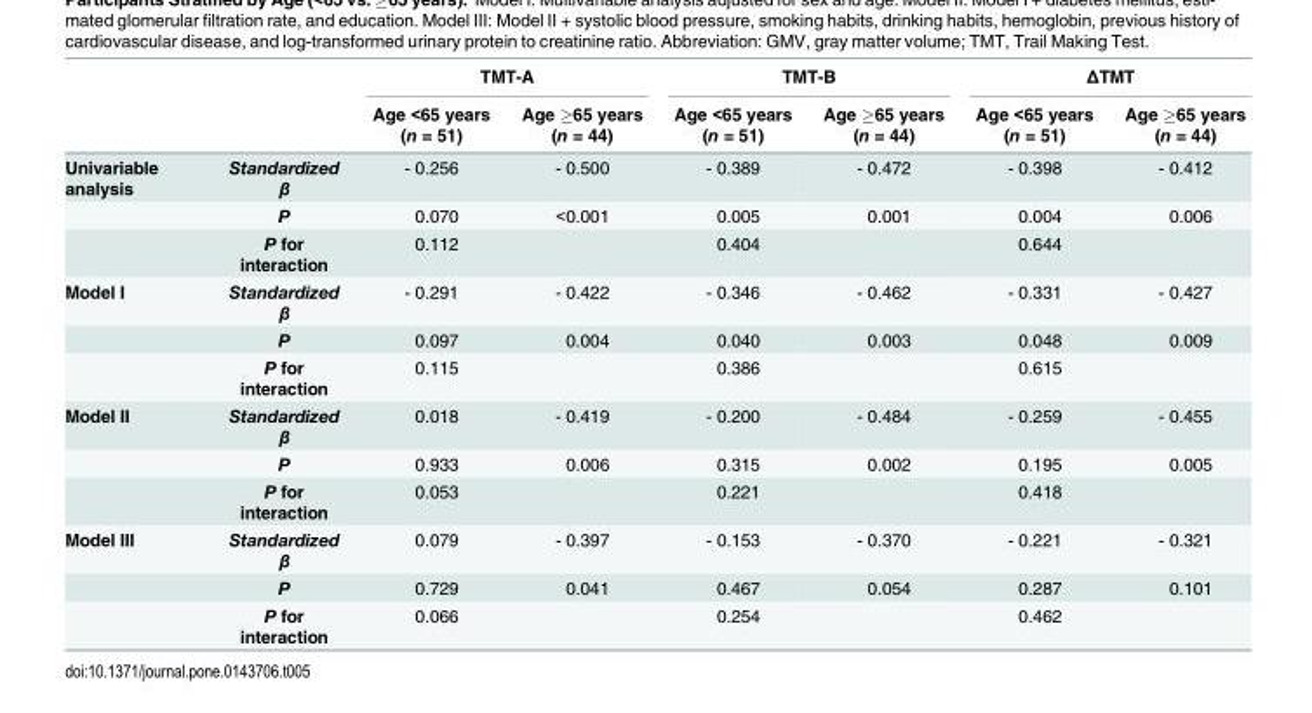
<table><thead><tr><td rowspan="2"></td><td rowspan="2"></td><td colspan="2">TMT-A</td><td colspan="2">TMT-B</td><td colspan="2">ΔTMT</td></tr><tr><td>Age &lt;65 years (n = 51)</td><td>Age ≥65 years (n = 44)</td><td>Age &lt;65 years (n = 51)</td><td>Age ≥65 years (n = 44)</td><td>Age &lt;65 years (n = 51)</td><td>Age ≥65 years (n = 44)</td></tr></thead><tbody><tr><td rowspan="3">Univariable analysis</td><td>Standardized β</td><td>- 0.256</td><td>- 0.500</td><td>- 0.389</td><td>- 0.472</td><td>- 0.398</td><td>- 0.412</td></tr><tr><td>P</td><td>0.070</td><td>&lt;0.001</td><td>0.005</td><td>0.001</td><td>0.004</td><td>0.006</td></tr><tr><td>P for interaction</td><td colspan="2">0.112</td><td colspan="2">0.404</td><td colspan="2">0.644</td></tr><tr><td rowspan="3">Model I</td><td>Standardized β</td><td>- 0.291</td><td>- 0.422</td><td>- 0.346</td><td>- 0.462</td><td>- 0.331</td><td>- 0.427</td></tr><tr><td>P</td><td>0.097</td><td>0.004</td><td>0.040</td><td>0.003</td><td>0.048</td><td>0.009</td></tr><tr><td>P for interaction</td><td colspan="2">0.115</td><td colspan="2">0.386</td><td colspan="2">0.615</td></tr><tr><td rowspan="3">Model II</td><td>Standardized β</td><td>0.018</td><td>- 0.419</td><td>- 0.200</td><td>- 0.484</td><td>- 0.259</td><td>- 0.455</td></tr><tr><td>P</td><td>0.933</td><td>0.006</td><td>0.315</td><td>0.002</td><td>0.195</td><td>0.005</td></tr><tr><td>P for interaction</td><td colspan="2">0.053</td><td colspan="2">0.221</td><td colspan="2">0.418</td></tr><tr><td rowspan="3">Model III</td><td>Standardized β</td><td>0.079</td><td>- 0.397</td><td>- 0.153</td><td>- 0.370</td><td>- 0.221</td><td>- 0.321</td></tr><tr><td>P</td><td>0.729</td><td>0.041</td><td>0.467</td><td>0.054</td><td>0.287</td><td>0.101</td></tr><tr><td>P for interaction</td><td colspan="2">0.066</td><td colspan="2">0.254</td><td colspan="2">0.462</td></tr></tbody></table>